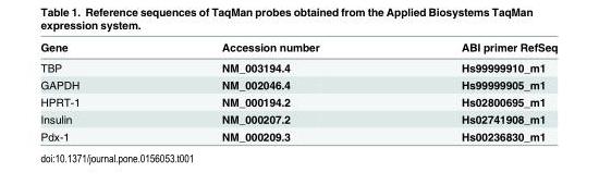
<table><thead><tr><td>Gene</td><td>Accession number</td><td>ABI primer RefSeq</td></tr></thead><tbody><tr><td>TBP</td><td>NM_003194.4</td><td>Hs99999910_m1</td></tr><tr><td>GAPDH</td><td>NM_002046.4</td><td>Hs99999905_m1</td></tr><tr><td>HPRT-1</td><td>NM_000194.2</td><td>Hs02800695_m1</td></tr><tr><td>Insulin</td><td>NM_000207.2</td><td>Hs02741908_m1</td></tr><tr><td>Pdx-1</td><td>NM_000209.3</td><td>Hs00236830_m1</td></tr></tbody></table>